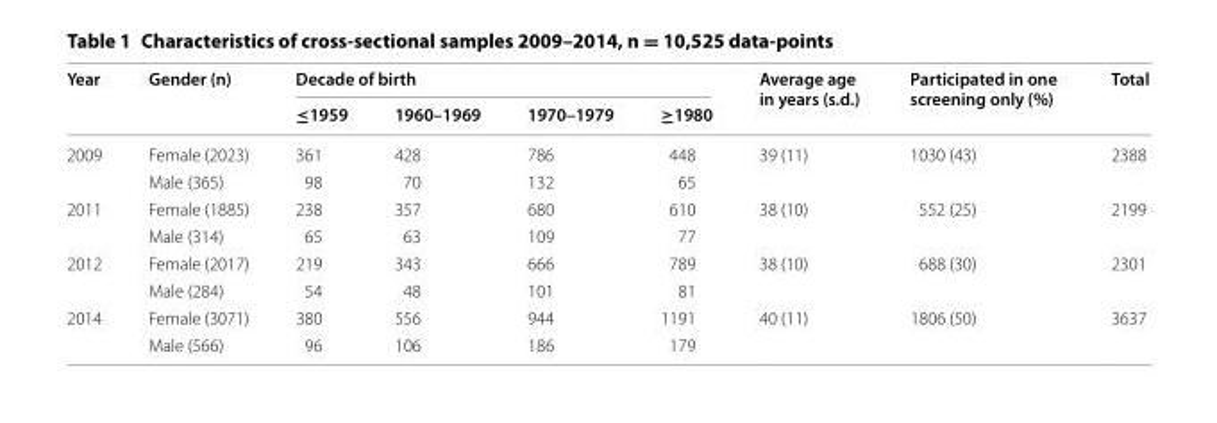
<table><thead><tr><td rowspan="2">Year</td><td rowspan="2">Gender (n)</td><td colspan="4">Decade of birth</td><td rowspan="2">Average age in years (s.d.)</td><td rowspan="2">Participated in one screening only (%)</td><td rowspan="2">Total</td></tr><tr><td>≤1959</td><td>1960–1969</td><td>1970–1979</td><td>≥1980</td></tr></thead><tbody><tr><td rowspan="2">2009</td><td>Female (2023)</td><td>361</td><td>428</td><td>786</td><td>448</td><td rowspan="2">39 (11)</td><td rowspan="2">1030 (43)</td><td rowspan="2">2388</td></tr><tr><td>Male (365)</td><td>98</td><td>70</td><td>132</td><td>65</td></tr><tr><td rowspan="2">2011</td><td>Female (1885)</td><td>238</td><td>357</td><td>680</td><td>610</td><td rowspan="2">38 (10)</td><td rowspan="2">552 (25)</td><td rowspan="2">2199</td></tr><tr><td>Male (314)</td><td>65</td><td>63</td><td>109</td><td>77</td></tr><tr><td rowspan="2">2012</td><td>Female (2017)</td><td>219</td><td>343</td><td>666</td><td>789</td><td rowspan="2">38 (10)</td><td rowspan="2">688 (30)</td><td rowspan="2">2301</td></tr><tr><td>Male (284)</td><td>54</td><td>48</td><td>101</td><td>81</td></tr><tr><td rowspan="2">2014</td><td>Female (3071)</td><td>380</td><td>556</td><td>944</td><td>1191</td><td rowspan="2">40 (11)</td><td rowspan="2">1806 (50)</td><td rowspan="2">3637</td></tr><tr><td>Male (566)</td><td>96</td><td>106</td><td>186</td><td>179</td></tr></tbody></table>